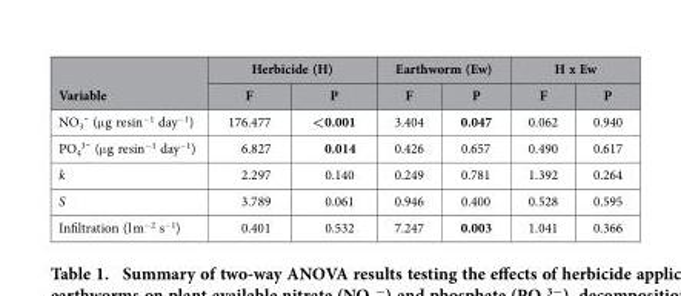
<table><thead><tr><td rowspan="2">Variable</td><td colspan="2">Herbicide (H)</td><td colspan="2">Earthworm (Ew)</td><td colspan="2">H x Ew</td></tr><tr><td>F</td><td>P</td><td>F</td><td>P</td><td>F</td><td>P</td></tr></thead><tbody><tr><td>NO<sub>3</sub>¯ (μ g resin<sup>−1</sup> day<sup>−1</sup>)</td><td>176.477</td><td>&lt;0.001</td><td>3.404</td><td>0.047</td><td>0.062</td><td>0.940</td></tr><tr><td>PO<sub>4</sub> <sup>3</sup>¯ (μ g resin<sup>−1</sup> day<sup>−1</sup>)</td><td>6.827</td><td>0.014</td><td>0.426</td><td>0.657</td><td>0.490</td><td>0.617</td></tr><tr><td>k</td><td>2.297</td><td>0.140</td><td>0.249</td><td>0.781</td><td>1.392</td><td>0.264</td></tr><tr><td>S</td><td>3.789</td><td>0.061</td><td>0.946</td><td>0.400</td><td>0.528</td><td>0.595</td></tr><tr><td>Infiltration (l m<sup>−2</sup> s<sup>−1</sup>)</td><td>0.401</td><td>0.532</td><td>7.247</td><td>0.003</td><td>1.041</td><td>0.366</td></tr></tbody></table>